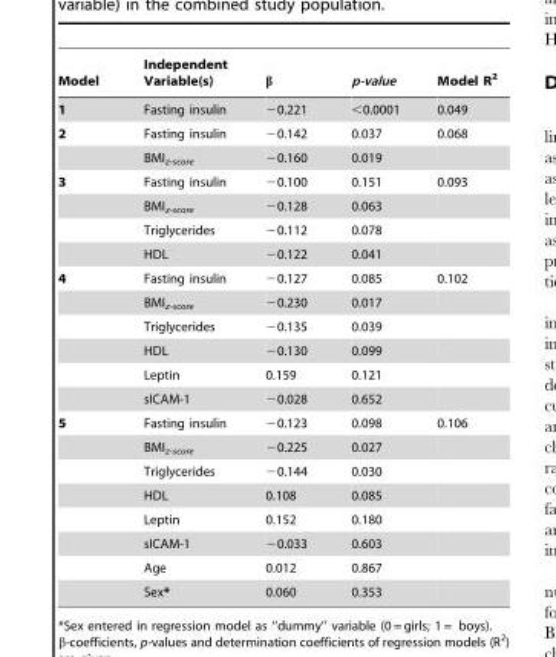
<table><thead><tr><td>Model</td><td>Independent Variable(s)</td><td>β</td><td>p-value</td><td>Model R<sup>2</sup></td></tr></thead><tbody><tr><td>1</td><td>Fasting insulin</td><td>−0.221</td><td>&lt;0.0001</td><td>0.049</td></tr><tr><td rowspan="2">2</td><td>Fasting insulin</td><td>−0.142</td><td>0.037</td><td>0.068</td></tr><tr><td>BMI<sub>z-score</sub></td><td>−0.160</td><td>0.019</td><td></td></tr><tr><td rowspan="4">3</td><td>Fasting insulin</td><td>−0.100</td><td>0.151</td><td>0.093</td></tr><tr><td>BMI<sub>z-score</sub></td><td>−0.128</td><td>0.063</td><td></td></tr><tr><td>Triglycerides</td><td>−0.112</td><td>0.078</td><td></td></tr><tr><td>HDL</td><td>−0.122</td><td>0.041</td><td></td></tr><tr><td rowspan="6">4</td><td>Fasting insulin</td><td>−0.127</td><td>0.085</td><td>0.102</td></tr><tr><td>BMI<sub>z-score</sub></td><td>−0.230</td><td>0.017</td><td></td></tr><tr><td>Triglycerides</td><td>−0.135</td><td>0.039</td><td></td></tr><tr><td>HDL</td><td>−0.130</td><td>0.099</td><td></td></tr><tr><td>Leptin</td><td>0.159</td><td>0.121</td><td></td></tr><tr><td>sICAM-1</td><td>−0.028</td><td>0.652</td><td></td></tr><tr><td rowspan="8">5</td><td>Fasting insulin</td><td>−0.123</td><td>0.098</td><td>0.106</td></tr><tr><td>BMI<sub>z-score</sub></td><td>−0.225</td><td>0.027</td><td></td></tr><tr><td>Triglycerides</td><td>−0.144</td><td>0.030</td><td></td></tr><tr><td>HDL</td><td>0.108</td><td>0.085</td><td></td></tr><tr><td>Leptin</td><td>0.152</td><td>0.180</td><td></td></tr><tr><td>sICAM-1</td><td>−0.033</td><td>0.603</td><td></td></tr><tr><td>Age</td><td>0.012</td><td>0.867</td><td></td></tr><tr><td>Sex*</td><td>0.060</td><td>0.353</td><td></td></tr></tbody></table>